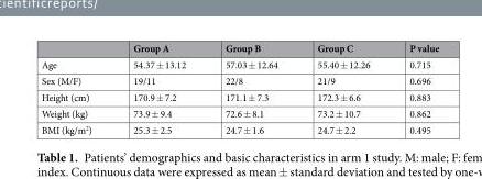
<table><thead><tr><td></td><td>Group A</td><td>Group B</td><td>Group C</td><td>P value</td></tr></thead><tbody><tr><td>Age</td><td>54.37 ± 13.12</td><td>57.03 ± 12.64</td><td>55.40 ± 12.26</td><td>0.715</td></tr><tr><td>Sex (M/F)</td><td>19/11</td><td>22/8</td><td>21/9</td><td>0.696</td></tr><tr><td>Height (cm)</td><td>170.9 ± 7.2</td><td>171.1 ± 7.3</td><td>172.3 ± 6.6</td><td>0.883</td></tr><tr><td>Weight (kg)</td><td>73.9 ± 9.4</td><td>72.6 ± 8.1</td><td>73.2 ± 10.7</td><td>0.862</td></tr><tr><td>BMI (kg/m<sup>2</sup>)</td><td>25.3 ± 2.5</td><td>24.7 ± 1.6</td><td>24.7 ± 2.2</td><td>0.495</td></tr></tbody></table>